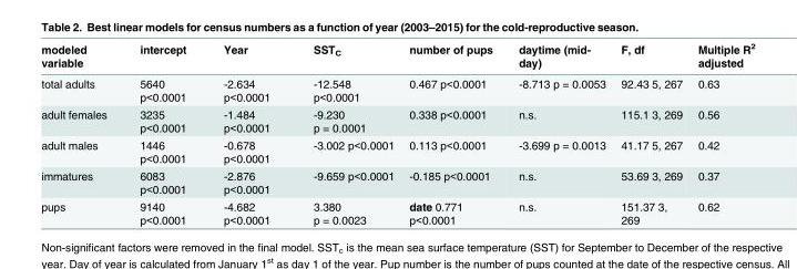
<table><thead><tr><td>modeled variable</td><td>intercept</td><td>Year</td><td>SST<sub>C</sub></td><td>number of pups</td><td>daytime (mid- day)</td><td>F, df</td><td>Multiple R<sup>2</sup> adjusted</td></tr></thead><tbody><tr><td>total adults</td><td>5640 p&lt;0.0001</td><td>-2.634 p&lt;0.0001</td><td>-12.548 p&lt;0.0001</td><td>0.467 p&lt;0.0001</td><td>-8.713 p = 0.0053</td><td>92.43 5, 267</td><td>0.63</td></tr><tr><td>adult females</td><td>3235 p&lt;0.0001</td><td>-1.484 p&lt;0.0001</td><td>-9.230 p = 0.0001</td><td>0.338 p&lt;0.0001</td><td>n.s.</td><td>115.1 3, 269</td><td>0.56</td></tr><tr><td>adult males</td><td>1446 p&lt;0.0001</td><td>-0.678 p&lt;0.0001</td><td>-3.002 p&lt;0.0001</td><td>0.113 p&lt;0.0001</td><td>-3.699 p = 0.0013</td><td>41.17 5, 267</td><td>0.42</td></tr><tr><td>immatures</td><td>6083 p&lt;0.0001</td><td>-2.876 p&lt;0.0001</td><td>-9.659 p&lt;0.0001</td><td>-0.185 p&lt;0.0001</td><td>n.s.</td><td>53.69 3, 269</td><td>0.37</td></tr><tr><td>pups</td><td>9140 p&lt;0.0001</td><td>-4.682 p&lt;0.0001</td><td>3.380 p = 0.0023</td><td>date 0.771 p&lt;0.0001</td><td>n.s.</td><td>151.37 3, 269</td><td>0.62</td></tr></tbody></table>